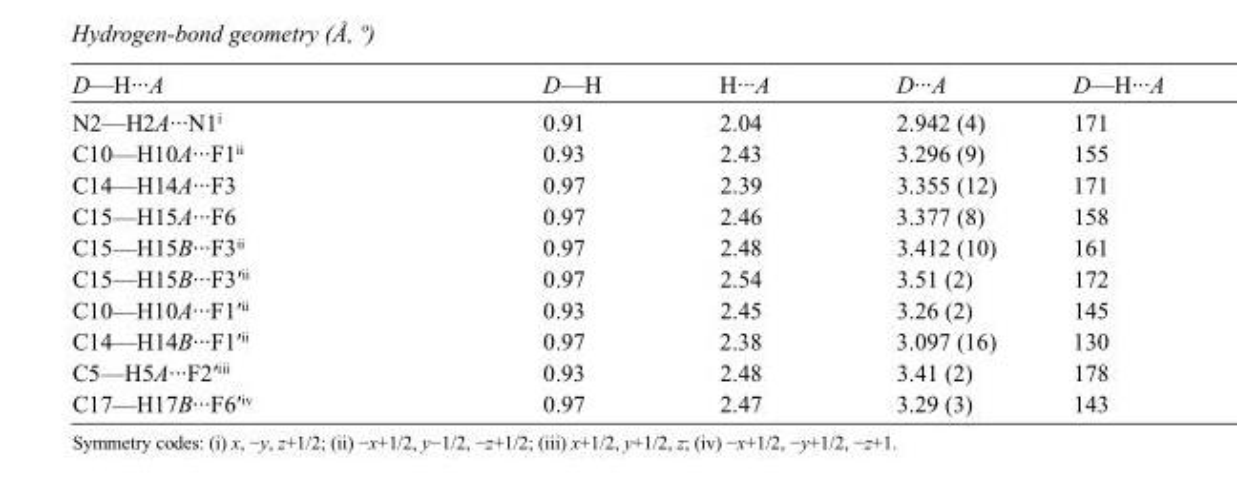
<table><tbody><tr><td>D—H···A</td><td>D—H</td><td>H···A</td><td>D···A</td><td>D—H···A</td></tr><tr><td>N2—H2A···N1<sup>i</sup></td><td>0.91</td><td>2.04</td><td>2.942 (4)</td><td>171</td></tr><tr><td>C10—H10A···F1<sup>ii</sup></td><td>0.93</td><td>2.43</td><td>3.296 (9)</td><td>155</td></tr><tr><td>C14—H14A···F3</td><td>0.97</td><td>2.39</td><td>3.355 (12)</td><td>171</td></tr><tr><td>C15—H15A···F6</td><td>0.97</td><td>2.46</td><td>3.377 (8)</td><td>158</td></tr><tr><td>C15—H15B···F3<sup>ii</sup></td><td>0.97</td><td>2.48</td><td>3.412 (10)</td><td>161</td></tr><tr><td>C15—H15B···F3′<sup>ii</sup></td><td>0.97</td><td>2.54</td><td>3.51 (2)</td><td>172</td></tr><tr><td>C10—H10A···F1′<sup>ii</sup></td><td>0.93</td><td>2.45</td><td>3.26 (2)</td><td>145</td></tr><tr><td>C14—H14B···F1′<sup>ii</sup></td><td>0.97</td><td>2.38</td><td>3.097 (16)</td><td>130</td></tr><tr><td>C5—H5A···F2′<sup>iii</sup></td><td>0.93</td><td>2.48</td><td>3.41 (2)</td><td>178</td></tr><tr><td>C17—H17B···F6′<sup>iv</sup></td><td>0.97</td><td>2.47</td><td>3.29 (3)</td><td>143</td></tr></tbody></table>